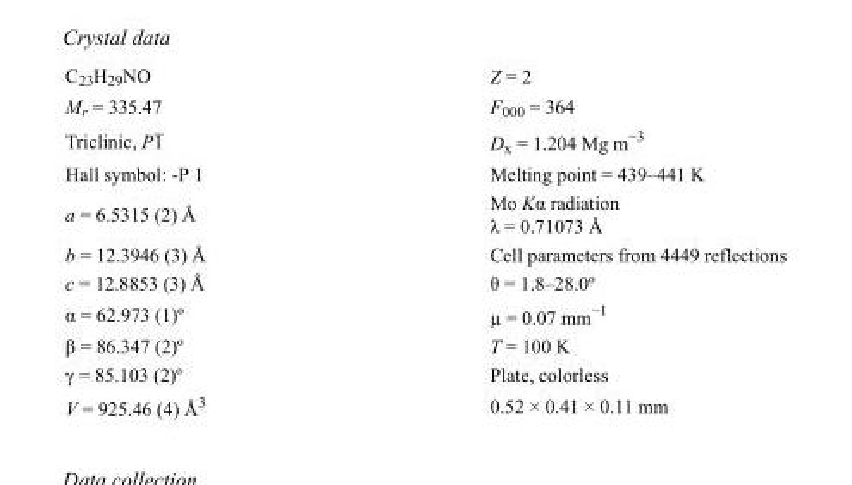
<table><tbody><tr><td>C<sub>23</sub>H<sub>29</sub>NO</td><td>Z = 2</td></tr><tr><td>M<sub>r</sub> = 335.47</td><td>F000 = 364</td></tr><tr><td>Triclinic, P1</td><td>D<sub>x</sub> = 1.204 Mg m<sup>−3</sup></td></tr><tr><td>Hall symbol: -P 1</td><td>Melting point = 439–441 K</td></tr><tr><td>a = 6.5315 (2) Å</td><td>Mo Kα radiation λ = 0.71073 Å</td></tr><tr><td>b = 12.3946 (3) Å</td><td>Cell parameters from 4449 reflections</td></tr><tr><td>c = 12.8853 (3) Å</td><td>θ = 1.8–28.0º</td></tr><tr><td>α = 62.973 (1)º</td><td>µ = 0.07 mm<sup>−1</sup></td></tr><tr><td>β = 86.347 (2)º</td><td>T = 100 K</td></tr><tr><td>γ = 85.103 (2)º</td><td>Plate, colorless</td></tr><tr><td>V = 925.46 (4) Å<sup>3</sup></td><td>0.52 × 0.41 × 0.11 mm</td></tr></tbody></table>